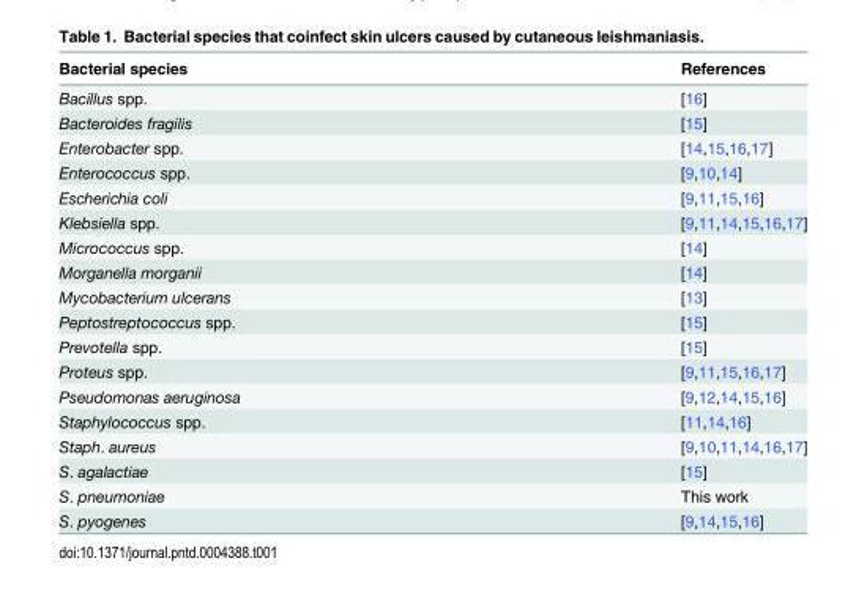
<table><thead><tr><td>Bacterial species</td><td>References</td></tr></thead><tbody><tr><td>Bacillus spp.</td><td>[16]</td></tr><tr><td>Bacteroides fragilis</td><td>[15]</td></tr><tr><td>Enterobacter spp.</td><td>[14,15,16,17]</td></tr><tr><td>Enterococcus spp.</td><td>[9,10,14]</td></tr><tr><td>Escherichia coli</td><td>[9,11,15,16]</td></tr><tr><td>Klebsiella spp.</td><td>[9,11,14,15,16,17]</td></tr><tr><td>Micrococcus spp.</td><td>[14]</td></tr><tr><td>Morganella morganii</td><td>[14]</td></tr><tr><td>Mycobacterium ulcerans</td><td>[13]</td></tr><tr><td>Peptostreptococcus spp.</td><td>[15]</td></tr><tr><td>Prevotella spp.</td><td>[15]</td></tr><tr><td>Proteus spp.</td><td>[9,11,15,16,17]</td></tr><tr><td>Pseudomonas aeruginosa</td><td>[9,12,14,15,16]</td></tr><tr><td>Staphylococcus spp.</td><td>[11,14,16]</td></tr><tr><td>Staph. aureus</td><td>[9,10,11,14,16,17]</td></tr><tr><td>S. agalactiae</td><td>[15]</td></tr><tr><td>S. pneumoniae</td><td>This work</td></tr><tr><td>S. pyogenes</td><td>[9,14,15,16]</td></tr></tbody></table>